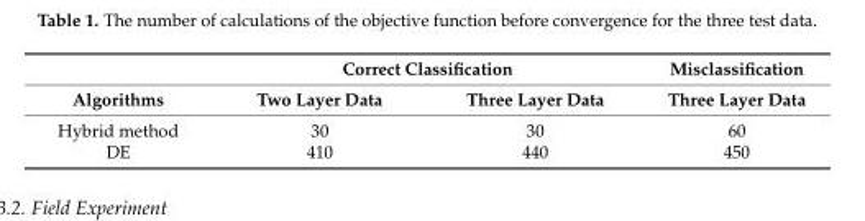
<table><thead><tr><td rowspan="2">Algorithms</td><td colspan="2">Correct Classification</td><td rowspan="2">Misclassification Three Layer Data</td></tr><tr><td>Two Layer Data</td><td>Three Layer Data</td></tr></thead><tbody><tr><td>Hybrid method</td><td>30</td><td>30</td><td>60</td></tr><tr><td>DE</td><td>410</td><td>440</td><td>450</td></tr></tbody></table>